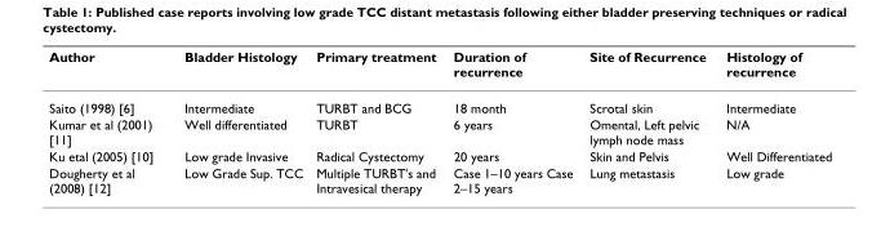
<table><thead><tr><td>Author</td><td>Bladder Histology</td><td>Primary treatment</td><td>Duration of recurrence</td><td>Site of Recurrence</td><td>Histology of recurrence</td></tr></thead><tbody><tr><td>Saito (1998) [6]</td><td>Intermediate</td><td>TURBT and BCG</td><td>18 month</td><td>Scrotal skin</td><td>Intermediate</td></tr><tr><td>Kumar et al (2001) [11]</td><td>Well differentiated</td><td>TURBT</td><td>6 years</td><td>Omental, Left pelvic lymph node mass</td><td>N/A</td></tr><tr><td>Ku etal (2005) [10]</td><td>Low grade Invasive</td><td>Radical Cystectomy</td><td>20 years</td><td>Skin and Pelvis</td><td>Well Differentiated</td></tr><tr><td>Dougherty et al (2008) [12]</td><td>Low Grade Sup. TCC</td><td>Multiple TURBT&#x27;s and Intravesical therapy</td><td>Case 1–10 years Case 2–15 years</td><td>Lung metastasis</td><td>Low grade</td></tr></tbody></table>